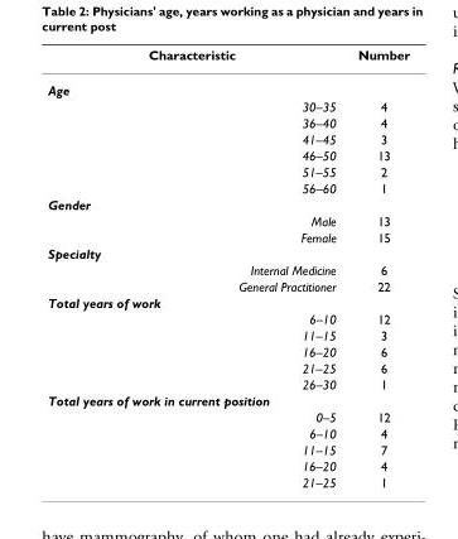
<table><thead><tr><td>Characteristic</td><td>Number</td></tr></thead><tbody><tr><td colspan="2">Age</td></tr><tr><td>30–35</td><td>4</td></tr><tr><td>36–40</td><td>4</td></tr><tr><td>41–45</td><td>3</td></tr><tr><td>46–50</td><td>13</td></tr><tr><td>51–55</td><td>2</td></tr><tr><td>56–60</td><td>1</td></tr><tr><td colspan="2">Gender</td></tr><tr><td>Male</td><td>13</td></tr><tr><td>Female</td><td>15</td></tr><tr><td colspan="2">Specialty</td></tr><tr><td>Internal Medicine</td><td>6</td></tr><tr><td>General Practitioner</td><td>22</td></tr><tr><td colspan="2">Total years of work</td></tr><tr><td>6–10</td><td>12</td></tr><tr><td>11–15</td><td>3</td></tr><tr><td>16–20</td><td>6</td></tr><tr><td>21–25</td><td>6</td></tr><tr><td>26–30</td><td>1</td></tr><tr><td colspan="2">Total years of work in current position</td></tr><tr><td>0–5</td><td>12</td></tr><tr><td>6–10</td><td>4</td></tr><tr><td>11–15</td><td>7</td></tr><tr><td>16–20</td><td>4</td></tr><tr><td>21–25</td><td>1</td></tr></tbody></table>